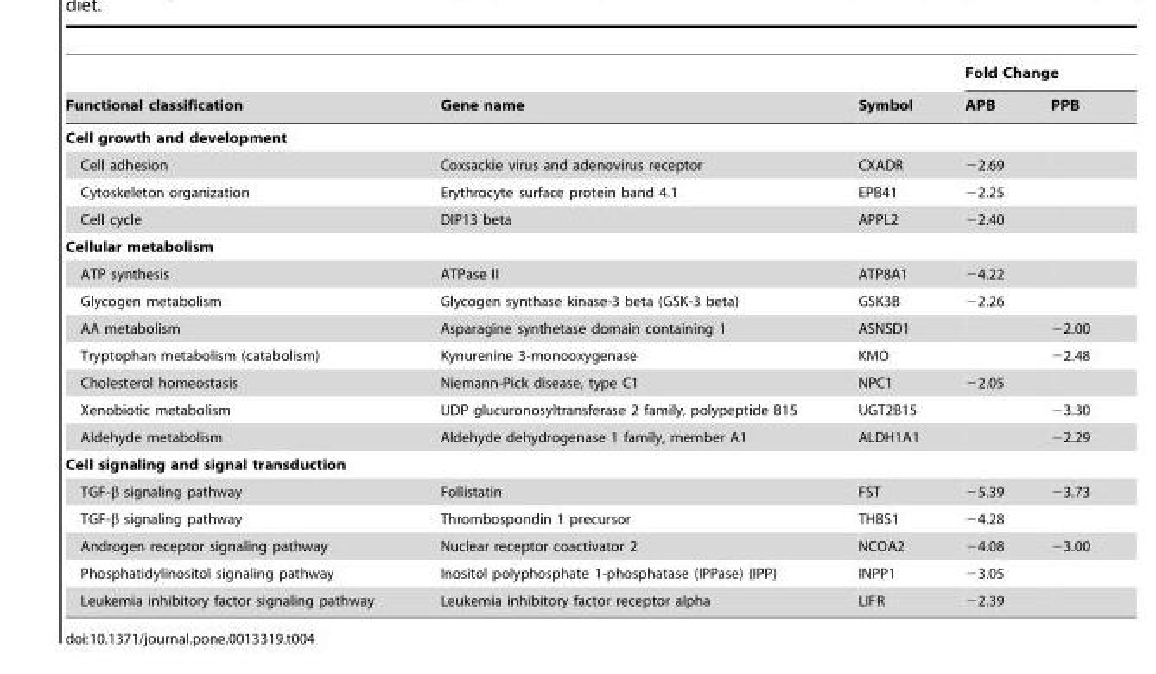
<table><thead><tr><td rowspan="2">Functional classification</td><td rowspan="2">Gene name</td><td rowspan="2">Symbol</td><td colspan="2">Fold Change</td></tr><tr><td>APB</td><td>PPB</td></tr></thead><tbody><tr><td colspan="5">Cell growth and development</td></tr><tr><td>Cell adhesion</td><td>Coxsackie virus and adenovirus receptor</td><td>CXADR</td><td>−2.69</td><td></td></tr><tr><td>Cytoskeleton organization</td><td>Erythrocyte surface protein band 4.1</td><td>EPB41</td><td>−2.25</td><td></td></tr><tr><td>Cell cycle</td><td>DIP13 beta</td><td>APPL2</td><td>−2.40</td><td></td></tr><tr><td colspan="5">Cellular metabolism</td></tr><tr><td>ATP synthesis</td><td>ATPase II</td><td>ATP8A1</td><td>−4.22</td><td></td></tr><tr><td>Glycogen metabolism</td><td>Glycogen synthase kinase-3 beta (GSK-3 beta)</td><td>GSK3B</td><td>−2.26</td><td></td></tr><tr><td>AA metabolism</td><td>Asparagine synthetase domain containing 1</td><td>ASNSD1</td><td></td><td>−2.00</td></tr><tr><td>Tryptophan metabolism (catabolism)</td><td>Kynurenine 3-monooxygenase</td><td>KMO</td><td></td><td>−2.48</td></tr><tr><td>Cholesterol homeostasis</td><td>Niemann-Pick disease, type C1</td><td>NPC1</td><td>−2.05</td><td></td></tr><tr><td>Xenobiotic metabolism</td><td>UDP glucuronosyltransferase 2 family, polypeptide B15</td><td>UGT2B15</td><td></td><td>−3.30</td></tr><tr><td>Aldehyde metabolism</td><td>Aldehyde dehydrogenase 1 family, member A1</td><td>ALDH1A1</td><td></td><td>−2.29</td></tr><tr><td colspan="5">Cell signaling and signal transduction</td></tr><tr><td>TGF-β signaling pathway</td><td>Follistatin</td><td>FST</td><td>−5.39</td><td>−3.73</td></tr><tr><td>TGF-β signaling pathway</td><td>Thrombospondin 1 precursor</td><td>THBS1</td><td>−4.28</td><td></td></tr><tr><td>Androgen receptor signaling pathway</td><td>Nuclear receptor coactivator 2</td><td>NCOA2</td><td>−4.08</td><td>−3.00</td></tr><tr><td>Phosphatidylinositol signaling pathway</td><td>Inositol polyphosphate 1-phosphatase (IPPase) (IPP)</td><td>INPP1</td><td>−3.05</td><td></td></tr><tr><td>Leukemia inhibitory factor signaling pathway</td><td>Leukemia inhibitory factor receptor alpha</td><td>LIFR</td><td>−2.39</td><td></td></tr></tbody></table>